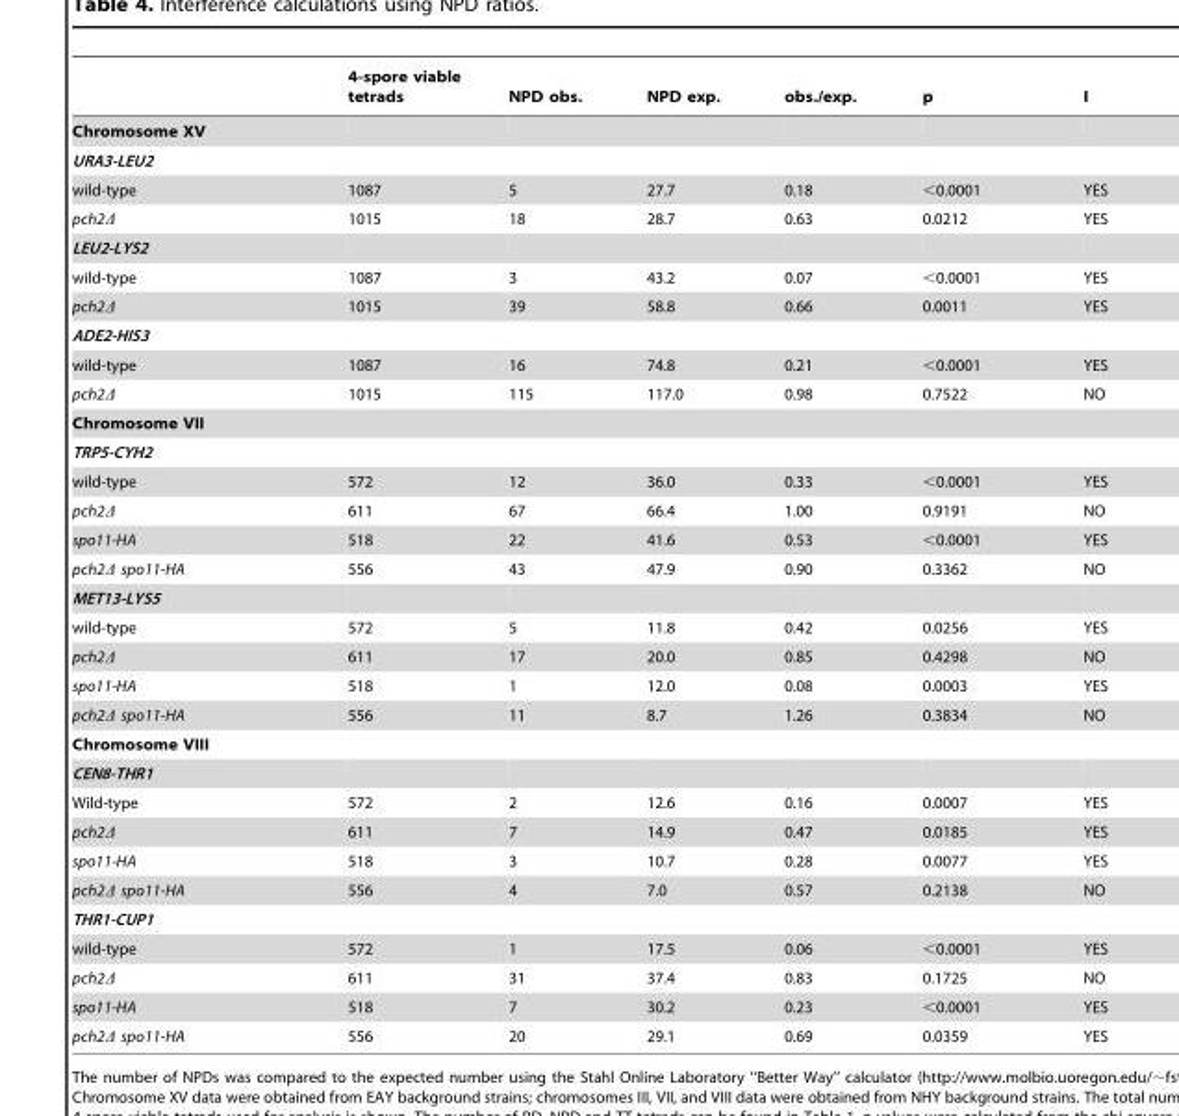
<table><thead><tr><td></td><td>4-spore viable tetrads</td><td>NPD obs.</td><td>NPD exp.</td><td>obs./exp.</td><td>p</td><td>I</td></tr></thead><tbody><tr><td colspan="7">Chromosome XV</td></tr><tr><td colspan="7">URA3-LEU2</td></tr><tr><td>wild-type</td><td>1087</td><td>5</td><td>27.7</td><td>0.18</td><td>&lt;0.0001</td><td>YES</td></tr><tr><td>pch2Δ</td><td>1015</td><td>18</td><td>28.7</td><td>0.63</td><td>0.0212</td><td>YES</td></tr><tr><td colspan="7">LEU2-LYS2</td></tr><tr><td>wild-type</td><td>1087</td><td>3</td><td>43.2</td><td>0.07</td><td>&lt;0.0001</td><td>YES</td></tr><tr><td>pch2Δ</td><td>1015</td><td>39</td><td>58.8</td><td>0.66</td><td>0.0011</td><td>YES</td></tr><tr><td colspan="7">ADE2-HIS3</td></tr><tr><td>wild-type</td><td>1087</td><td>16</td><td>74.8</td><td>0.21</td><td>&lt;0.0001</td><td>YES</td></tr><tr><td>pch2Δ</td><td>1015</td><td>115</td><td>117.0</td><td>0.98</td><td>0.7522</td><td>NO</td></tr><tr><td colspan="7">Chromosome VII</td></tr><tr><td colspan="7">TRP5-CYH2</td></tr><tr><td>wild-type</td><td>572</td><td>12</td><td>36.0</td><td>0.33</td><td>&lt;0.0001</td><td>YES</td></tr><tr><td>pch2Δ</td><td>611</td><td>67</td><td>66.4</td><td>1.00</td><td>0.9191</td><td>NO</td></tr><tr><td>spo11-HA</td><td>518</td><td>22</td><td>41.6</td><td>0.53</td><td>&lt;0.0001</td><td>YES</td></tr><tr><td>pch2Δ spo11-HA</td><td>556</td><td>43</td><td>47.9</td><td>0.90</td><td>0.3362</td><td>NO</td></tr><tr><td colspan="7">MET13-LYS5</td></tr><tr><td>wild-type</td><td>572</td><td>5</td><td>11.8</td><td>0.42</td><td>0.0256</td><td>YES</td></tr><tr><td>pch2Δ</td><td>611</td><td>17</td><td>20.0</td><td>0.85</td><td>0.4298</td><td>NO</td></tr><tr><td>spo11-HA</td><td>518</td><td>1</td><td>12.0</td><td>0.08</td><td>0.0003</td><td>YES</td></tr><tr><td>pch2Δ spo11-HA</td><td>556</td><td>11</td><td>8.7</td><td>1.26</td><td>0.3834</td><td>NO</td></tr><tr><td colspan="7">Chromosome VIII</td></tr><tr><td colspan="7">CEN8-THR1</td></tr><tr><td>Wild-type</td><td>572</td><td>2</td><td>12.6</td><td>0.16</td><td>0.0007</td><td>YES</td></tr><tr><td>pch2Δ</td><td>611</td><td>7</td><td>14.9</td><td>0.47</td><td>0.0185</td><td>YES</td></tr><tr><td>spo11-HA</td><td>518</td><td>3</td><td>10.7</td><td>0.28</td><td>0.0077</td><td>YES</td></tr><tr><td>pch2Δ spo11-HA</td><td>556</td><td>4</td><td>7.0</td><td>0.57</td><td>0.2138</td><td>NO</td></tr><tr><td colspan="7">THR1-CUP1</td></tr><tr><td>wild-type</td><td>572</td><td>1</td><td>17.5</td><td>0.06</td><td>&lt;0.0001</td><td>YES</td></tr><tr><td>pch2Δ</td><td>611</td><td>31</td><td>37.4</td><td>0.83</td><td>0.1725</td><td>NO</td></tr><tr><td>spo11-HA</td><td>518</td><td>7</td><td>30.2</td><td>0.23</td><td>&lt;0.0001</td><td>YES</td></tr><tr><td>pch2Δ spo11-HA</td><td>556</td><td>20</td><td>29.1</td><td>0.69</td><td>0.0359</td><td>YES</td></tr></tbody></table>